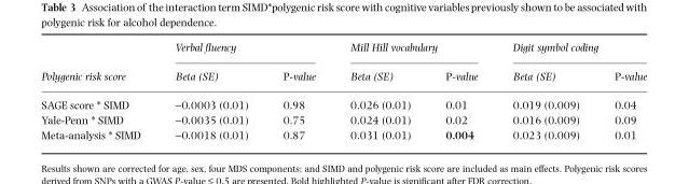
<table><thead><tr><td rowspan="2">Polygenic risk score</td><td colspan="2">Verbal fluency</td><td colspan="2">Mill Hill vocabulary</td><td colspan="2">Digit symbol coding</td></tr><tr><td>Beta (SE)</td><td>P-value</td><td>Beta (SE)</td><td>P-value</td><td>Beta (SE)</td><td>P-value</td></tr></thead><tbody><tr><td>SAGE score * SIMD</td><td>−0.0003 (0.01)</td><td>0.98</td><td>0.026 (0.01)</td><td>0.01</td><td>0.019 (0.009)</td><td>0.04</td></tr><tr><td>Yale-Penn * SIMD</td><td>−0.0035 (0.01)</td><td>0.75</td><td>0.024 (0.01)</td><td>0.02</td><td>0.016 (0.009)</td><td>0.09</td></tr><tr><td>Meta-analysis * SIMD</td><td>−0.0018 (0.01)</td><td>0.87</td><td>0.031 (0.01)</td><td>0.004</td><td>0.023 (0.009)</td><td>0.01</td></tr></tbody></table>